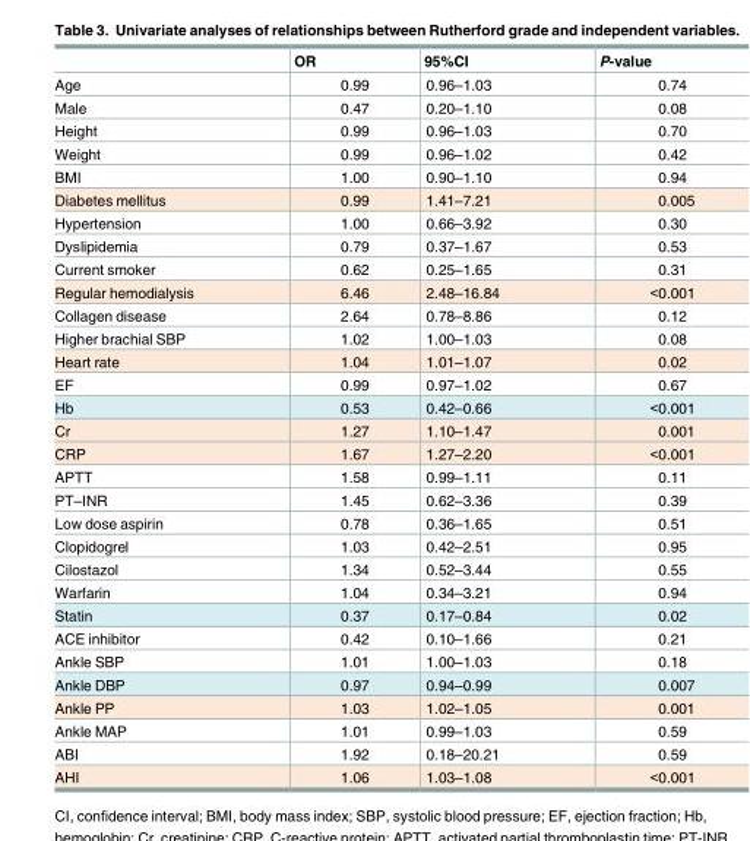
<table><thead><tr><td></td><td>OR</td><td>95%CI</td><td>P-value</td></tr></thead><tbody><tr><td>Age</td><td>0.99</td><td>0.96–1.03</td><td>0.74</td></tr><tr><td>Male</td><td>0.47</td><td>0.20–1.10</td><td>0.08</td></tr><tr><td>Height</td><td>0.99</td><td>0.96–1.03</td><td>0.70</td></tr><tr><td>Weight</td><td>0.99</td><td>0.96–1.02</td><td>0.42</td></tr><tr><td>BMI</td><td>1.00</td><td>0.90–1.10</td><td>0.94</td></tr><tr><td>Diabetes mellitus</td><td>0.99</td><td>1.41–7.21</td><td>0.005</td></tr><tr><td>Hypertension</td><td>1.00</td><td>0.66–3.92</td><td>0.30</td></tr><tr><td>Dyslipidemia</td><td>0.79</td><td>0.37–1.67</td><td>0.53</td></tr><tr><td>Current smoker</td><td>0.62</td><td>0.25–1.65</td><td>0.31</td></tr><tr><td>Regular hemodialysis</td><td>6.46</td><td>2.48–16.84</td><td>&lt;0.001</td></tr><tr><td>Collagen disease</td><td>2.64</td><td>0.78–8.86</td><td>0.12</td></tr><tr><td>Higher brachial SBP</td><td>1.02</td><td>1.00–1.03</td><td>0.08</td></tr><tr><td>Heart rate</td><td>1.04</td><td>1.01–1.07</td><td>0.02</td></tr><tr><td>EF</td><td>0.99</td><td>0.97–1.02</td><td>0.67</td></tr><tr><td>Hb</td><td>0.53</td><td>0.42–0.66</td><td>&lt;0.001</td></tr><tr><td>Cr</td><td>1.27</td><td>1.10–1.47</td><td>0.001</td></tr><tr><td>CRP</td><td>1.67</td><td>1.27–2.20</td><td>&lt;0.001</td></tr><tr><td>APTT</td><td>1.58</td><td>0.99–1.11</td><td>0.11</td></tr><tr><td>PT–INR</td><td>1.45</td><td>0.62–3.36</td><td>0.39</td></tr><tr><td>Low dose aspirin</td><td>0.78</td><td>0.36–1.65</td><td>0.51</td></tr><tr><td>Clopidogrel</td><td>1.03</td><td>0.42–2.51</td><td>0.95</td></tr><tr><td>Cilostazol</td><td>1.34</td><td>0.52–3.44</td><td>0.55</td></tr><tr><td>Warfarin</td><td>1.04</td><td>0.34–3.21</td><td>0.94</td></tr><tr><td>Statin</td><td>0.37</td><td>0.17–0.84</td><td>0.02</td></tr><tr><td>ACE inhibitor</td><td>0.42</td><td>0.10–1.66</td><td>0.21</td></tr><tr><td>Ankle SBP</td><td>1.01</td><td>1.00–1.03</td><td>0.18</td></tr><tr><td>Ankle DBP</td><td>0.97</td><td>0.94–0.99</td><td>0.007</td></tr><tr><td>Ankle PP</td><td>1.03</td><td>1.02–1.05</td><td>0.001</td></tr><tr><td>Ankle MAP</td><td>1.01</td><td>0.99–1.03</td><td>0.59</td></tr><tr><td>ABI</td><td>1.92</td><td>0.18–20.21</td><td>0.59</td></tr><tr><td>AHI</td><td>1.06</td><td>1.03–1.08</td><td>&lt;0.001</td></tr></tbody></table>